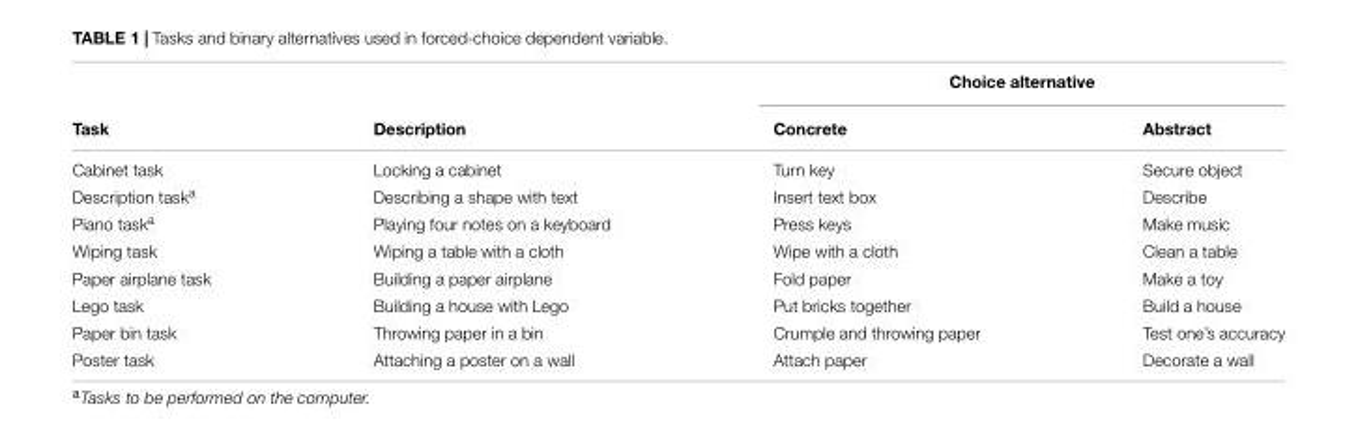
<table><thead><tr><td rowspan="2">Task</td><td rowspan="2">Description</td><td colspan="2">Choice alternative</td></tr><tr><td>Concrete</td><td>Abstract</td></tr></thead><tbody><tr><td>Cabinet task</td><td>Locking a cabinet</td><td>Turn key</td><td>Secure object</td></tr><tr><td>Description task<sup>a</sup></td><td>Describing a shape with text</td><td>Insert text box</td><td>Describe</td></tr><tr><td>Piano task<sup>a</sup></td><td>Playing four notes on a keyboard</td><td>Press keys</td><td>Make music</td></tr><tr><td>Wiping task</td><td>Wiping a table with a cloth</td><td>Wipe with a cloth</td><td>Clean a table</td></tr><tr><td>Paper airplane task</td><td>Building a paper airplane</td><td>Fold paper</td><td>Make a toy</td></tr><tr><td>Lego task</td><td>Building a house with Lego</td><td>Put bricks together</td><td>Build a house</td></tr><tr><td>Paper bin task</td><td>Throwing paper in a bin</td><td>Crumple and throwing paper</td><td>Test one’s accuracy</td></tr><tr><td>Poster task</td><td>Attaching a poster on a wall</td><td>Attach paper</td><td>Decorate a wall</td></tr></tbody></table>